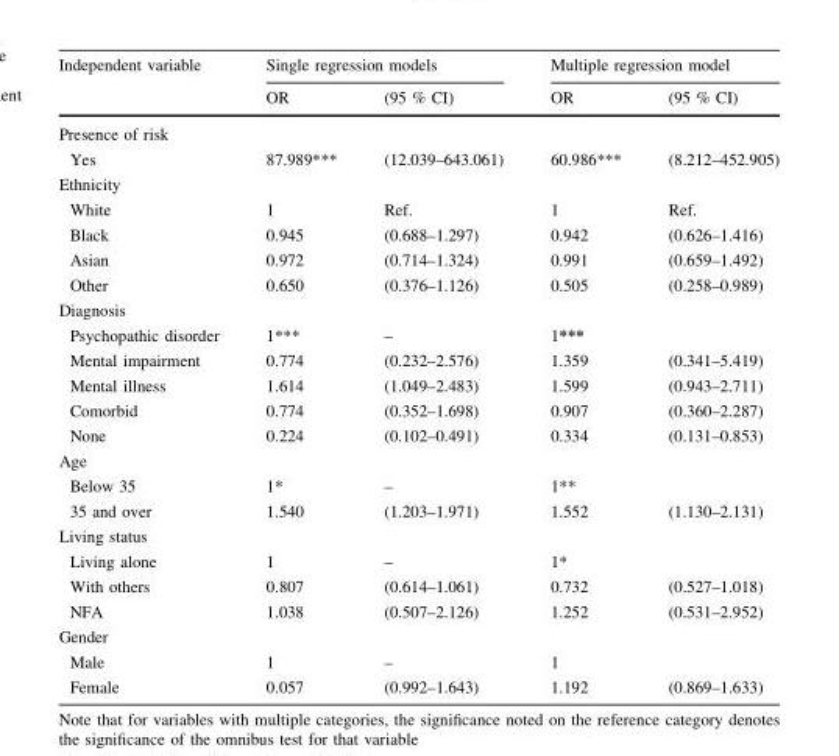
<table><thead><tr><td rowspan="2">Independent variable</td><td colspan="2">Single regression models</td><td colspan="2">Multiple regression model</td></tr><tr><td>OR</td><td>(95 % CI)</td><td>OR</td><td>(95 % CI)</td></tr></thead><tbody><tr><td colspan="5">Presence of risk</td></tr><tr><td>Yes</td><td>87.989***</td><td>(12.039–643.061)</td><td>60.986***</td><td>(8.212–452.905)</td></tr><tr><td colspan="5">Ethnicity</td></tr><tr><td>White</td><td>1</td><td>Ref.</td><td>1</td><td>Ref.</td></tr><tr><td>Black</td><td>0.945</td><td>(0.688–1.297)</td><td>0.942</td><td>(0.626–1.416)</td></tr><tr><td>Asian</td><td>0.972</td><td>(0.714–1.324)</td><td>0.991</td><td>(0.659–1.492)</td></tr><tr><td>Other</td><td>0.650</td><td>(0.376–1.126)</td><td>0.505</td><td>(0.258–0.989)</td></tr><tr><td colspan="5">Diagnosis</td></tr><tr><td>Psychopathic disorder</td><td>1***</td><td>–</td><td>1***</td><td></td></tr><tr><td>Mental impairment</td><td>0.774</td><td>(0.232–2.576)</td><td>1.359</td><td>(0.341–5.419)</td></tr><tr><td>Mental illness</td><td>1.614</td><td>(1.049–2.483)</td><td>1.599</td><td>(0.943–2.711)</td></tr><tr><td>Comorbid</td><td>0.774</td><td>(0.352–1.698)</td><td>0.907</td><td>(0.360–2.287)</td></tr><tr><td>None</td><td>0.224</td><td>(0.102–0.491)</td><td>0.334</td><td>(0.131–0.853)</td></tr><tr><td colspan="5">Age</td></tr><tr><td>Below 35</td><td>1*</td><td>–</td><td>1**</td><td></td></tr><tr><td>35 and over</td><td>1.540</td><td>(1.203–1.971)</td><td>1.552</td><td>(1.130–2.131)</td></tr><tr><td colspan="5">Living status</td></tr><tr><td>Living alone</td><td>1</td><td>–</td><td>1*</td><td></td></tr><tr><td>With others</td><td>0.807</td><td>(0.614–1.061)</td><td>0.732</td><td>(0.527–1.018)</td></tr><tr><td>NFA</td><td>1.038</td><td>(0.507–2.126)</td><td>1.252</td><td>(0.531–2.952)</td></tr><tr><td colspan="5">Gender</td></tr><tr><td>Male</td><td>1</td><td>–</td><td>1</td><td></td></tr><tr><td>Female</td><td>0.057</td><td>(0.992–1.643)</td><td>1.192</td><td>(0.869–1.633)</td></tr></tbody></table>